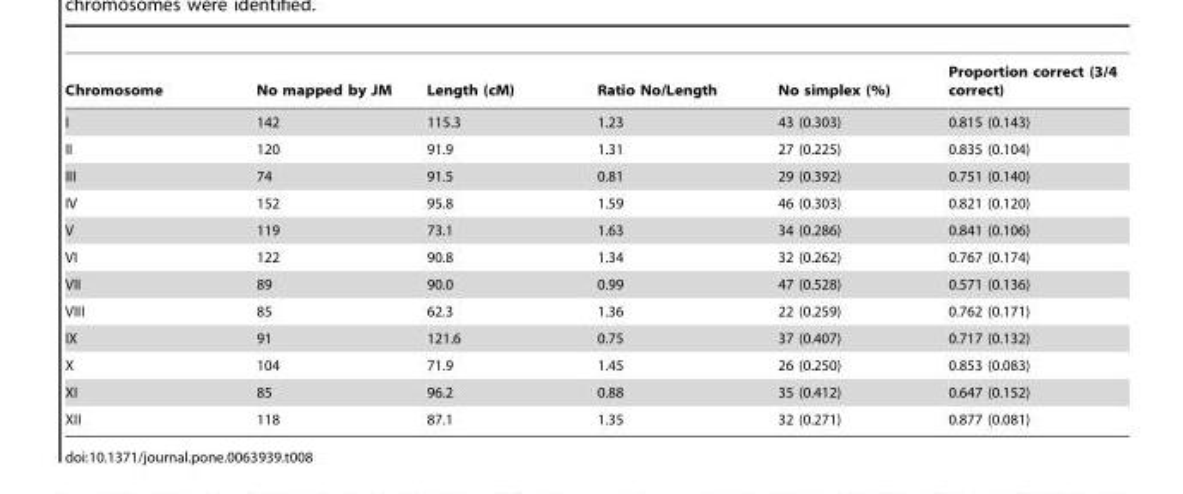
<table><thead><tr><td>Chromosome</td><td>No mapped by JM</td><td>Length (cM)</td><td>Ratio No/Length</td><td>No simplex (%)</td><td>Proportion correct (3/4 correct)</td></tr></thead><tbody><tr><td>I</td><td>142</td><td>115.3</td><td>1.23</td><td>43 (0.303)</td><td>0.815 (0.143)</td></tr><tr><td>II</td><td>120</td><td>91.9</td><td>1.31</td><td>27 (0.225)</td><td>0.835 (0.104)</td></tr><tr><td>III</td><td>74</td><td>91.5</td><td>0.81</td><td>29 (0.392)</td><td>0.751 (0.140)</td></tr><tr><td>IV</td><td>152</td><td>95.8</td><td>1.59</td><td>46 (0.303)</td><td>0.821 (0.120)</td></tr><tr><td>V</td><td>119</td><td>73.1</td><td>1.63</td><td>34 (0.286)</td><td>0.841 (0.106)</td></tr><tr><td>VI</td><td>122</td><td>90.8</td><td>1.34</td><td>32 (0.262)</td><td>0.767 (0.174)</td></tr><tr><td>VII</td><td>89</td><td>90.0</td><td>0.99</td><td>47 (0.528)</td><td>0.571 (0.136)</td></tr><tr><td>VIII</td><td>85</td><td>62.3</td><td>1.36</td><td>22 (0.259)</td><td>0.762 (0.171)</td></tr><tr><td>IX</td><td>91</td><td>121.6</td><td>0.75</td><td>37 (0.407)</td><td>0.717 (0.132)</td></tr><tr><td>X</td><td>104</td><td>71.9</td><td>1.45</td><td>26 (0.250)</td><td>0.853 (0.083)</td></tr><tr><td>XI</td><td>85</td><td>96.2</td><td>0.88</td><td>35 (0.412)</td><td>0.647 (0.152)</td></tr><tr><td>XII</td><td>118</td><td>87.1</td><td>1.35</td><td>32 (0.271)</td><td>0.877 (0.081)</td></tr></tbody></table>